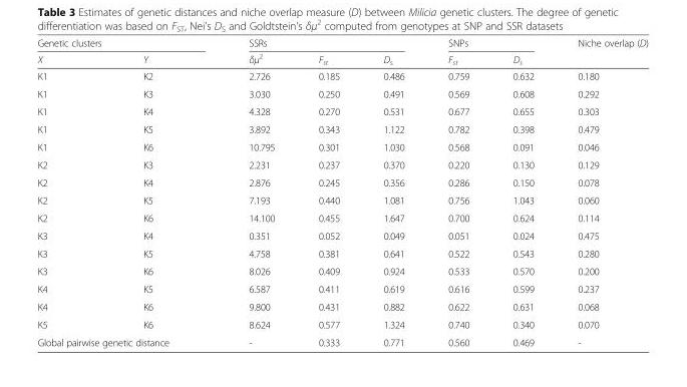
<table><thead><tr><td colspan="2">Genetic clusters</td><td colspan="3">SSRs</td><td colspan="2">SNPs</td><td rowspan="2">Niche overlap (D)</td></tr><tr><td>X</td><td>Y</td><td>δμ<sup>2</sup></td><td>F<sub>st</sub></td><td>D<sub>s</sub></td><td>F<sub>st</sub></td><td>D<sub>s</sub></td></tr></thead><tbody><tr><td>K1</td><td>K2</td><td>2.726</td><td>0.185</td><td>0.486</td><td>0.759</td><td>0.632</td><td>0.180</td></tr><tr><td>K1</td><td>K3</td><td>3.030</td><td>0.250</td><td>0.491</td><td>0.569</td><td>0.608</td><td>0.292</td></tr><tr><td>K1</td><td>K4</td><td>4.328</td><td>0.270</td><td>0.531</td><td>0.677</td><td>0.655</td><td>0.303</td></tr><tr><td>K1</td><td>K5</td><td>3.892</td><td>0.343</td><td>1.122</td><td>0.782</td><td>0.398</td><td>0.479</td></tr><tr><td>K1</td><td>K6</td><td>10.795</td><td>0.301</td><td>1.030</td><td>0.568</td><td>0.091</td><td>0.046</td></tr><tr><td>K2</td><td>K3</td><td>2.231</td><td>0.237</td><td>0.370</td><td>0.220</td><td>0.130</td><td>0.129</td></tr><tr><td>K2</td><td>K4</td><td>2.876</td><td>0.245</td><td>0.356</td><td>0.286</td><td>0.150</td><td>0.078</td></tr><tr><td>K2</td><td>K5</td><td>7.193</td><td>0.440</td><td>1.081</td><td>0.756</td><td>1.043</td><td>0.060</td></tr><tr><td>K2</td><td>K6</td><td>14.100</td><td>0.455</td><td>1.647</td><td>0.700</td><td>0.624</td><td>0.114</td></tr><tr><td>K3</td><td>K4</td><td>0.351</td><td>0.052</td><td>0.049</td><td>0.051</td><td>0.024</td><td>0.475</td></tr><tr><td>K3</td><td>K5</td><td>4.758</td><td>0.381</td><td>0.641</td><td>0.522</td><td>0.543</td><td>0.280</td></tr><tr><td>K3</td><td>K6</td><td>8.026</td><td>0.409</td><td>0.924</td><td>0.533</td><td>0.570</td><td>0.200</td></tr><tr><td>K4</td><td>K5</td><td>6.587</td><td>0.411</td><td>0.619</td><td>0.616</td><td>0.599</td><td>0.237</td></tr><tr><td>K4</td><td>K6</td><td>9.800</td><td>0.431</td><td>0.882</td><td>0.622</td><td>0.631</td><td>0.068</td></tr><tr><td>K5</td><td>K6</td><td>8.624</td><td>0.577</td><td>1.324</td><td>0.740</td><td>0.340</td><td>0.070</td></tr><tr><td colspan="2">Global pairwise genetic distance</td><td>-</td><td>0.333</td><td>0.771</td><td>0.560</td><td>0.469</td><td>-</td></tr></tbody></table>